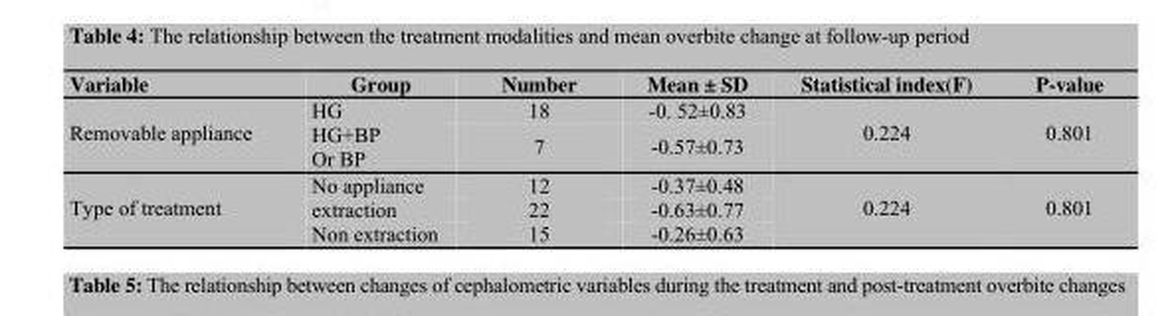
<table><thead><tr><td>Variable</td><td>Group</td><td>Number</td><td>Mean ± SD</td><td>Statistical index(F)</td><td>P-value</td></tr></thead><tbody><tr><td rowspan="2">Removable appliance</td><td>HG</td><td>18</td><td>-0. 52±0.83</td><td rowspan="2">0.224</td><td rowspan="2">0.801</td></tr><tr><td>HG+BP Or BP</td><td>7</td><td>-0.57±0.73</td></tr><tr><td rowspan="3">Type of treatment</td><td>No appliance</td><td>12</td><td>-0.37±0.48</td><td rowspan="3">0.224</td><td rowspan="3">0.801</td></tr><tr><td>extraction</td><td>22</td><td>-0.63±0.77</td></tr><tr><td>Non extraction</td><td>15</td><td>-0.26±0.63</td></tr></tbody></table>